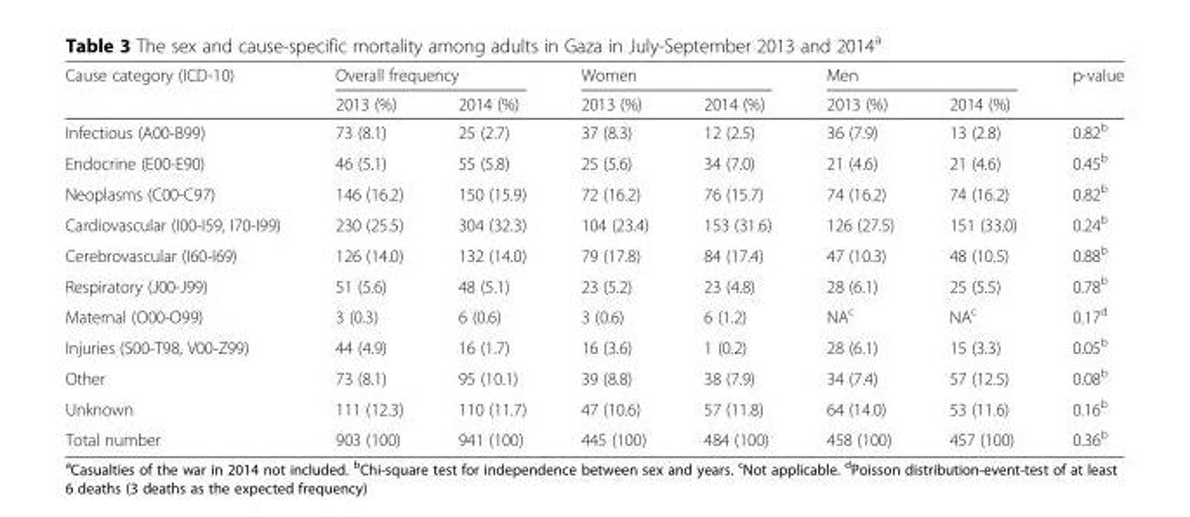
<table><thead><tr><td rowspan="2">Cause category (ICD-10)</td><td colspan="2">Overall frequency</td><td colspan="2">Women</td><td colspan="2">Men</td><td rowspan="2">p-value</td></tr><tr><td>2013 (%)</td><td>2014 (%)</td><td>2013 (%)</td><td>2014 (%)</td><td>2013 (%)</td><td>2014 (%)</td></tr></thead><tbody><tr><td>Infectious (A00-B99)</td><td>73 (8.1)</td><td>25 (2.7)</td><td>37 (8.3)</td><td>12 (2.5)</td><td>36 (7.9)</td><td>13 (2.8)</td><td>0.82<sup>b</sup></td></tr><tr><td>Endocrine (E00-E90)</td><td>46 (5.1)</td><td>55 (5.8)</td><td>25 (5.6)</td><td>34 (7.0)</td><td>21 (4.6)</td><td>21 (4.6)</td><td>0.45<sup>b</sup></td></tr><tr><td>Neoplasms (C00-C97)</td><td>146 (16.2)</td><td>150 (15.9)</td><td>72 (16.2)</td><td>76 (15.7)</td><td>74 (16.2)</td><td>74 (16.2)</td><td>0.82<sup>b</sup></td></tr><tr><td>Cardiovascular (I00-I59, I70-I99)</td><td>230 (25.5)</td><td>304 (32.3)</td><td>104 (23.4)</td><td>153 (31.6)</td><td>126 (27.5)</td><td>151 (33.0)</td><td>0.24<sup>b</sup></td></tr><tr><td>Cerebrovascular (I60-I69)</td><td>126 (14.0)</td><td>132 (14.0)</td><td>79 (17.8)</td><td>84 (17.4)</td><td>47 (10.3)</td><td>48 (10.5)</td><td>0.88<sup>b</sup></td></tr><tr><td>Respiratory (J00-J99)</td><td>51 (5.6)</td><td>48 (5.1)</td><td>23 (5.2)</td><td>23 (4.8)</td><td>28 (6.1)</td><td>25 (5.5)</td><td>0.78<sup>b</sup></td></tr><tr><td>Maternal (O00-O99)</td><td>3 (0.3)</td><td>6 (0.6)</td><td>3 (0.6)</td><td>6 (1.2)</td><td>NA<sup>c</sup></td><td>NA<sup>c</sup></td><td>0.17<sup>d</sup></td></tr><tr><td>Injuries (S00-T98, V00-Z99)</td><td>44 (4.9)</td><td>16 (1.7)</td><td>16 (3.6)</td><td>1 (0.2)</td><td>28 (6.1)</td><td>15 (3.3)</td><td>0.05<sup>b</sup></td></tr><tr><td>Other</td><td>73 (8.1)</td><td>95 (10.1)</td><td>39 (8.8)</td><td>38 (7.9)</td><td>34 (7.4)</td><td>57 (12.5)</td><td>0.08<sup>b</sup></td></tr><tr><td>Unknown</td><td>111 (12.3)</td><td>110 (11.7)</td><td>47 (10.6)</td><td>57 (11.8)</td><td>64 (14.0)</td><td>53 (11.6)</td><td>0.16<sup>b</sup></td></tr><tr><td>Total number</td><td>903 (100)</td><td>941 (100)</td><td>445 (100)</td><td>484 (100)</td><td>458 (100)</td><td>457 (100)</td><td>0.36<sup>b</sup></td></tr></tbody></table>